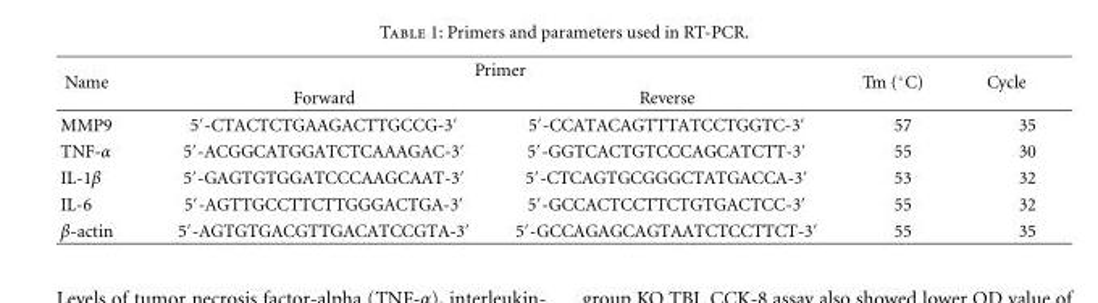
<table><thead><tr><td rowspan="2">Name</td><td colspan="2">Primer</td><td rowspan="2">Tm (◦C)</td><td rowspan="2">Cycle</td></tr><tr><td>Forward</td><td>Reverse</td></tr></thead><tbody><tr><td>MMP9</td><td>5′-CTACTCTGAAGACTTGCCG-3′</td><td>5′-CCATACAGTTTATCCTGGTC-3′</td><td>57</td><td>35</td></tr><tr><td>TNF-α</td><td>5′-ACGGCATGGATCTCAAAGAC-3′</td><td>5′-GGTCACTGTCCCAGCATCTT-3′</td><td>55</td><td>30</td></tr><tr><td>IL-1β</td><td>5′-GAGTGTGGATCCCAAGCAAT-3′</td><td>5′-CTCAGTGCGGGCTATGACCA-3′</td><td>53</td><td>32</td></tr><tr><td>IL-6</td><td>5′-AGTTGCCTTCTTGGGACTGA-3′</td><td>5′-GCCACTCCTTCTGTGACTCC-3′</td><td>55</td><td>32</td></tr><tr><td>β-actin</td><td>5′-AGTGTGACGTTGACATCCGTA-3′</td><td>5′-GCCAGAGCAGTAATCTCCTTCT-3′</td><td>55</td><td>35</td></tr></tbody></table>